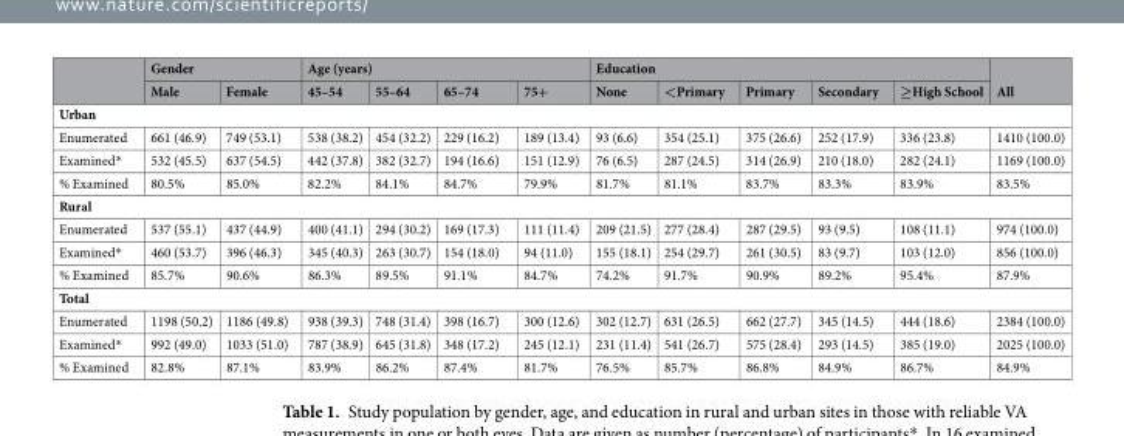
<table><thead><tr><td rowspan="2"></td><td colspan="2">Gender</td><td colspan="4">Age (years)</td><td colspan="5">Education</td><td rowspan="2">All</td></tr><tr><td>Male</td><td>Female</td><td>45–54</td><td>55–64</td><td>65–74</td><td>75+</td><td>None</td><td>&lt;Primary</td><td>Primary</td><td>Secondary</td><td>≥High School</td></tr></thead><tbody><tr><td colspan="13">Urban</td></tr><tr><td>Enumerated</td><td>661 (46.9)</td><td>749 (53.1)</td><td>538 (38.2)</td><td>454 (32.2)</td><td>229 (16.2)</td><td>189 (13.4)</td><td>93 (6.6)</td><td>354 (25.1)</td><td>375 (26.6)</td><td>252 (17.9)</td><td>336 (23.8)</td><td>1410 (100.0)</td></tr><tr><td>Examined*</td><td>532 (45.5)</td><td>637 (54.5)</td><td>442 (37.8)</td><td>382 (32.7)</td><td>194 (16.6)</td><td>151 (12.9)</td><td>76 (6.5)</td><td>287 (24.5)</td><td>314 (26.9)</td><td>210 (18.0)</td><td>282 (24.1)</td><td>1169 (100.0)</td></tr><tr><td>% Examined</td><td>80.5%</td><td>85.0%</td><td>82.2%</td><td>84.1%</td><td>84.7%</td><td>79.9%</td><td>81.7%</td><td>81.1%</td><td>83.7%</td><td>83.3%</td><td>83.9%</td><td>83.5%</td></tr><tr><td colspan="13">Rural</td></tr><tr><td>Enumerated</td><td>537 (55.1)</td><td>437 (44.9)</td><td>400 (41.1)</td><td>294 (30.2)</td><td>169 (17.3)</td><td>111 (11.4)</td><td>209 (21.5)</td><td>277 (28.4)</td><td>287 (29.5)</td><td>93 (9.5)</td><td>108 (11.1)</td><td>974 (100.0)</td></tr><tr><td>Examined*</td><td>460 (53.7)</td><td>396 (46.3)</td><td>345 (40.3)</td><td>263 (30.7)</td><td>154 (18.0)</td><td>94 (11.0)</td><td>155 (18.1)</td><td>254 (29.7)</td><td>261 (30.5)</td><td>83 (9.7)</td><td>103 (12.0)</td><td>856 (100.0)</td></tr><tr><td>% Examined</td><td>85.7%</td><td>90.6%</td><td>86.3%</td><td>89.5%</td><td>91.1%</td><td>84.7%</td><td>74.2%</td><td>91.7%</td><td>90.9%</td><td>89.2%</td><td>95.4%</td><td>87.9%</td></tr><tr><td colspan="13">Total</td></tr><tr><td>Enumerated</td><td>1198 (50.2)</td><td>1186 (49.8)</td><td>938 (39.3)</td><td>748 (31.4)</td><td>398 (16.7)</td><td>300 (12.6)</td><td>302 (12.7)</td><td>631 (26.5)</td><td>662 (27.7)</td><td>345 (14.5)</td><td>444 (18.6)</td><td>2384 (100.0)</td></tr><tr><td>Examined*</td><td>992 (49.0)</td><td>1033 (51.0)</td><td>787 (38.9)</td><td>645 (31.8)</td><td>348 (17.2)</td><td>245 (12.1)</td><td>231 (11.4)</td><td>541 (26.7)</td><td>575 (28.4)</td><td>293 (14.5)</td><td>385 (19.0)</td><td>2025 (100.0)</td></tr><tr><td>% Examined</td><td>82.8%</td><td>87.1%</td><td>83.9%</td><td>86.2%</td><td>87.4%</td><td>81.7%</td><td>76.5%</td><td>85.7%</td><td>86.8%</td><td>84.9%</td><td>86.7%</td><td>84.9%</td></tr></tbody></table>